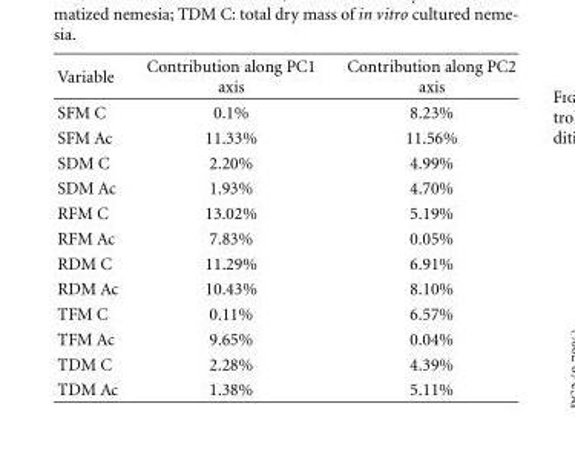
<table><thead><tr><td>Variable</td><td>Contribution along PC1 axis</td><td>Contribution along PC2 axis</td></tr></thead><tbody><tr><td>SFM C</td><td>0.1%</td><td>8.23%</td></tr><tr><td>SFM Ac</td><td>11.33%</td><td>11.56%</td></tr><tr><td>SDM C</td><td>2.20%</td><td>4.99%</td></tr><tr><td>SDM Ac</td><td>1.93%</td><td>4.70%</td></tr><tr><td>RFM C</td><td>13.02%</td><td>5.19%</td></tr><tr><td>RFM Ac</td><td>7.83%</td><td>0.05%</td></tr><tr><td>RDM C</td><td>11.29%</td><td>6.91%</td></tr><tr><td>RDM Ac</td><td>10.43%</td><td>8.10%</td></tr><tr><td>TFM C</td><td>0.11%</td><td>6.57%</td></tr><tr><td>TFM Ac</td><td>9.65%</td><td>0.04%</td></tr><tr><td>TDM C</td><td>2.28%</td><td>4.39%</td></tr><tr><td>TDM Ac</td><td>1.38%</td><td>5.11%</td></tr></tbody></table>